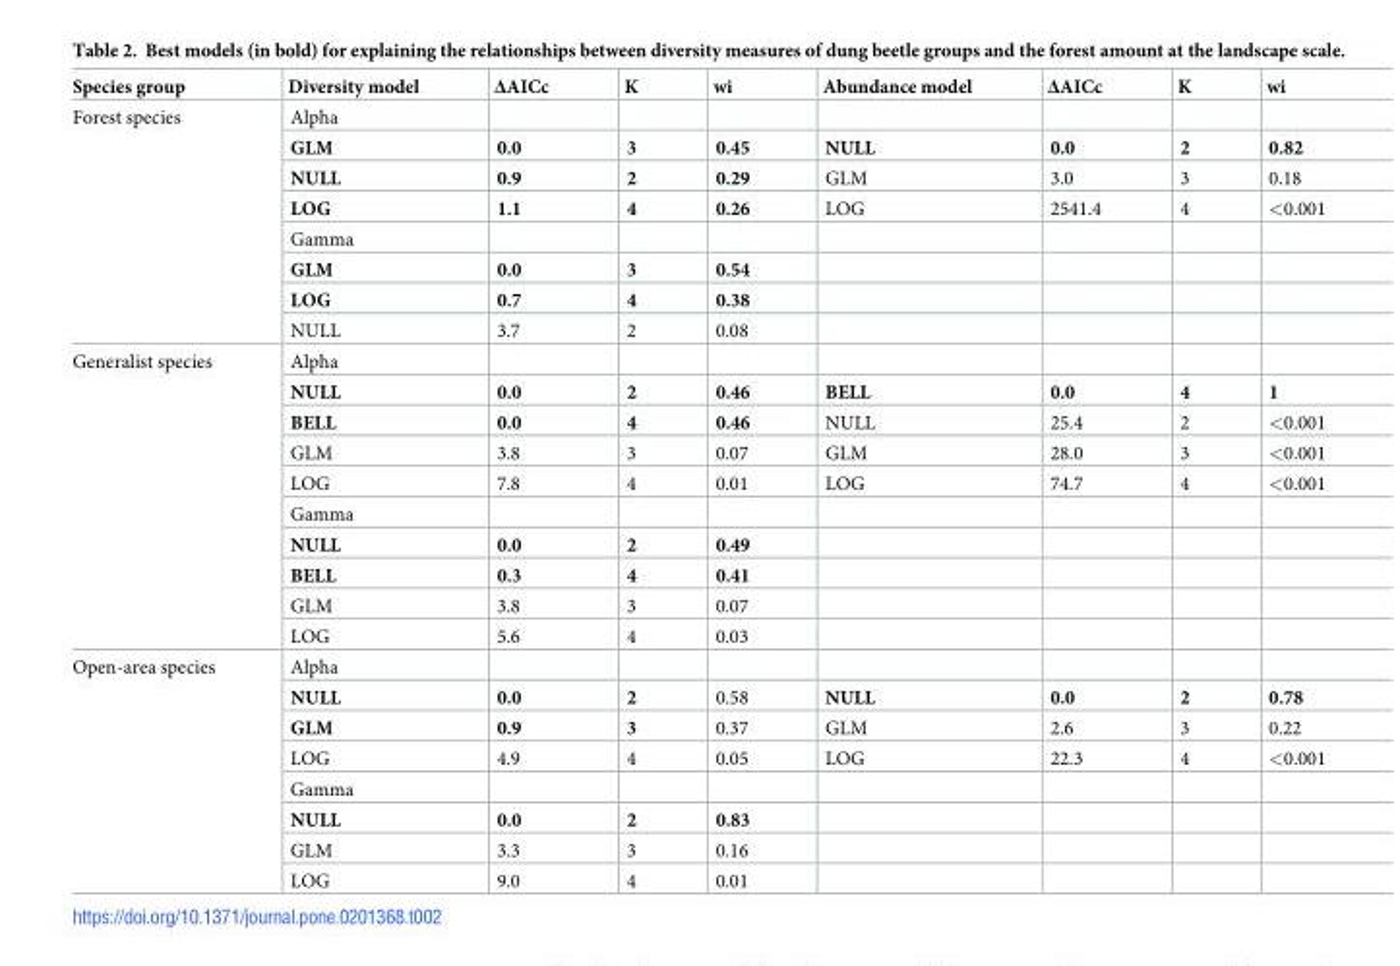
<table><thead><tr><td>Species group</td><td>Diversity model</td><td>ΔAICc</td><td>K</td><td>wi</td><td>Abundance model</td><td>ΔAICc</td><td>K</td><td>wi</td></tr></thead><tbody><tr><td rowspan="8">Forest species</td><td>Alpha</td><td></td><td></td><td></td><td></td><td></td><td></td><td></td></tr><tr><td>GLM</td><td>0.0</td><td>3</td><td>0.45</td><td>NULL</td><td>0.0</td><td>2</td><td>0.82</td></tr><tr><td>NULL</td><td>0.9</td><td>2</td><td>0.29</td><td>GLM</td><td>3.0</td><td>3</td><td>0.18</td></tr><tr><td>LOG</td><td>1.1</td><td>4</td><td>0.26</td><td>LOG</td><td>2541.4</td><td>4</td><td>&lt;0.001</td></tr><tr><td>Gamma</td><td></td><td></td><td></td><td></td><td></td><td></td><td></td></tr><tr><td>GLM</td><td>0.0</td><td>3</td><td>0.54</td><td></td><td></td><td></td><td></td></tr><tr><td>LOG</td><td>0.7</td><td>4</td><td>0.38</td><td></td><td></td><td></td><td></td></tr><tr><td>NULL</td><td>3.7</td><td>2</td><td>0.08</td><td></td><td></td><td></td><td></td></tr><tr><td rowspan="10">Generalist species</td><td>Alpha</td><td></td><td></td><td></td><td></td><td></td><td></td><td></td></tr><tr><td>NULL</td><td>0.0</td><td>2</td><td>0.46</td><td>BELL</td><td>0.0</td><td>4</td><td>1</td></tr><tr><td>BELL</td><td>0.0</td><td>4</td><td>0.46</td><td>NULL</td><td>25.4</td><td>2</td><td>&lt;0.001</td></tr><tr><td>GLM</td><td>3.8</td><td>3</td><td>0.07</td><td>GLM</td><td>28.0</td><td>3</td><td>&lt;0.001</td></tr><tr><td>LOG</td><td>7.8</td><td>4</td><td>0.01</td><td>LOG</td><td>74.7</td><td>4</td><td>&lt;0.001</td></tr><tr><td>Gamma</td><td></td><td></td><td></td><td></td><td></td><td></td><td></td></tr><tr><td>NULL</td><td>0.0</td><td>2</td><td>0.49</td><td></td><td></td><td></td><td></td></tr><tr><td>BELL</td><td>0.3</td><td>4</td><td>0.41</td><td></td><td></td><td></td><td></td></tr><tr><td>GLM</td><td>3.8</td><td>3</td><td>0.07</td><td></td><td></td><td></td><td></td></tr><tr><td>LOG</td><td>5.6</td><td>4</td><td>0.03</td><td></td><td></td><td></td><td></td></tr><tr><td rowspan="8">Open-area species</td><td>Alpha</td><td></td><td></td><td></td><td></td><td></td><td></td><td></td></tr><tr><td>NULL</td><td>0.0</td><td>2</td><td>0.58</td><td>NULL</td><td>0.0</td><td>2</td><td>0.78</td></tr><tr><td>GLM</td><td>0.9</td><td>3</td><td>0.37</td><td>GLM</td><td>2.6</td><td>3</td><td>0.22</td></tr><tr><td>LOG</td><td>4.9</td><td>4</td><td>0.05</td><td>LOG</td><td>22.3</td><td>4</td><td>&lt;0.001</td></tr><tr><td>Gamma</td><td></td><td></td><td></td><td></td><td></td><td></td><td></td></tr><tr><td>NULL</td><td>0.0</td><td>2</td><td>0.83</td><td></td><td></td><td></td><td></td></tr><tr><td>GLM</td><td>3.3</td><td>3</td><td>0.16</td><td></td><td></td><td></td><td></td></tr><tr><td>LOG</td><td>9.0</td><td>4</td><td>0.01</td><td></td><td></td><td></td><td></td></tr></tbody></table>